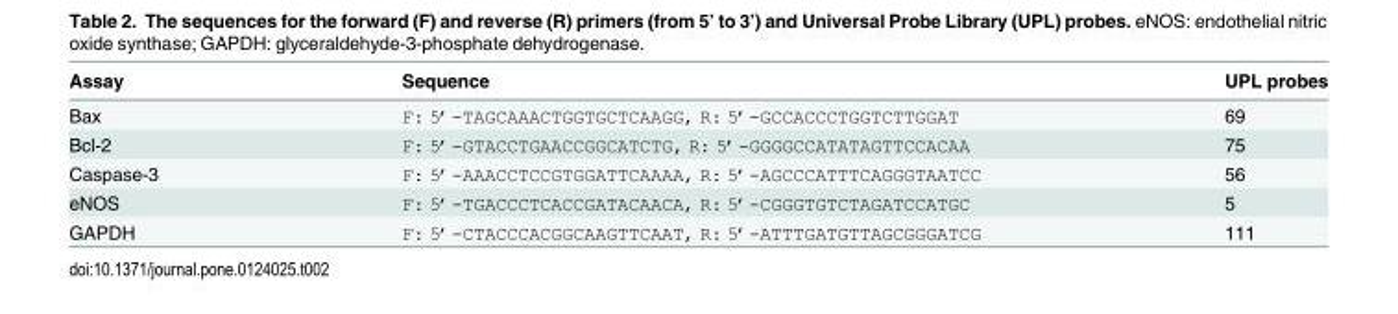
<table><thead><tr><td>Assay</td><td>Sequence</td><td>UPL probes</td></tr></thead><tbody><tr><td>Bax</td><td>F: 5’-TAGCAAACTGGTGCTCAAGG, R: 5’-GCCACCCTGGTCTTGGAT</td><td>69</td></tr><tr><td>Bcl-2</td><td>F: 5’-GTACCTGAACCGGCATCTG, R: 5’-GGGGCCATATAGTTCCACAA</td><td>75</td></tr><tr><td>Caspase-3</td><td>F: 5’-AAACCTCCGTGGATTCAAAA, R: 5’-AGCCCATTTCAGGGTAATCC</td><td>56</td></tr><tr><td>eNOS</td><td>F: 5’-TGACCCTCACCGATACAACA, R: 5’-CGGGTGTCTAGATCCATGC</td><td>5</td></tr><tr><td>GAPDH</td><td>F: 5’-CTACCCACGGCAAGTTCAAT, R: 5’-ATTTGATGTTAGCGGGATCG</td><td>111</td></tr></tbody></table>